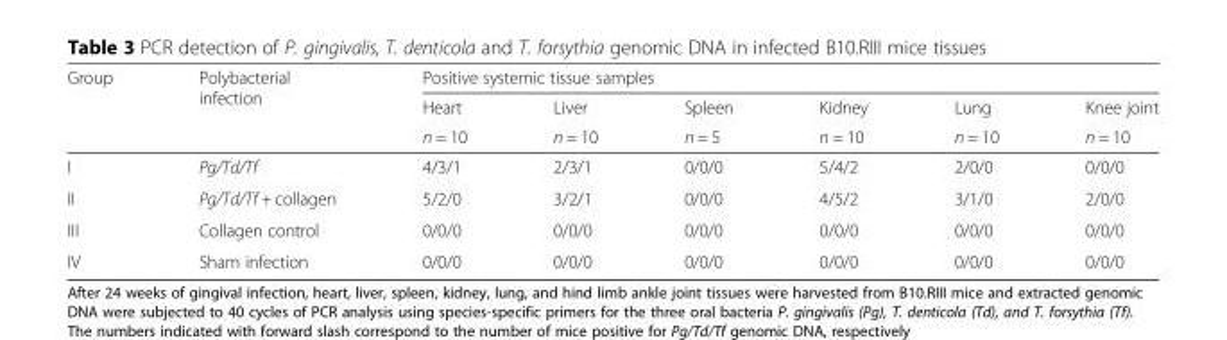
<table><thead><tr><td rowspan="3">Group</td><td rowspan="3">Polybacterial infection</td><td colspan="6">Positive systemic tissue samples</td></tr><tr><td rowspan="2">Heart n = 10</td><td rowspan="2">Liver n = 10</td><td rowspan="2">Spleen n = 5</td><td rowspan="2">Kidney n = 10</td><td rowspan="2">Lung n = 10</td><td rowspan="2">Knee joint n = 10</td></tr><tr></tr></thead><tbody><tr><td>I</td><td>Pg/Td/Tf</td><td>4/3/1</td><td>2/3/1</td><td>0/0/0</td><td>5/4/2</td><td>2/0/0</td><td>0/0/0</td></tr><tr><td>II</td><td>Pg/Td/Tf + collagen</td><td>5/2/0</td><td>3/2/1</td><td>0/0/0</td><td>4/5/2</td><td>3/1/0</td><td>2/0/0</td></tr><tr><td>III</td><td>Collagen control</td><td>0/0/0</td><td>0/0/0</td><td>0/0/0</td><td>0/0/0</td><td>0/0/0</td><td>0/0/0</td></tr><tr><td>IV</td><td>Sham infection</td><td>0/0/0</td><td>0/0/0</td><td>0/0/0</td><td>0/0/0</td><td>0/0/0</td><td>0/0/0</td></tr></tbody></table>